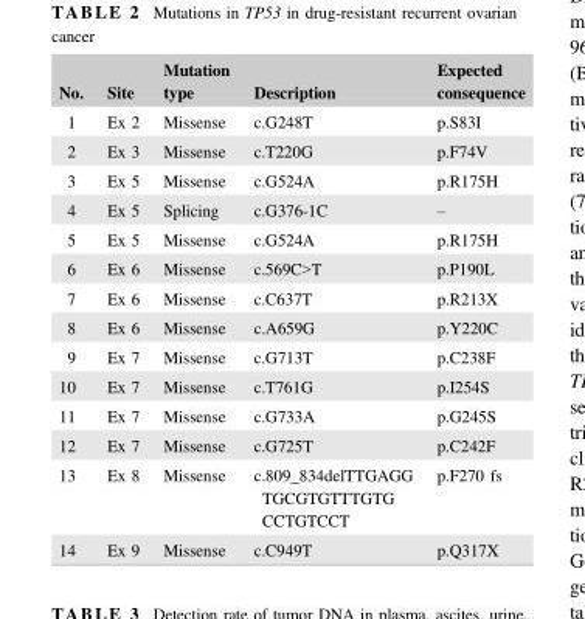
<table><thead><tr><td>No.</td><td>Site</td><td>Mutation type</td><td>Description</td><td>Expected consequence</td></tr></thead><tbody><tr><td>1</td><td>Ex 2</td><td>Missense</td><td>c.G248T</td><td>p.S83I</td></tr><tr><td>2</td><td>Ex 3</td><td>Missense</td><td>c.T220G</td><td>p.F74V</td></tr><tr><td>3</td><td>Ex 5</td><td>Missense</td><td>c.G524A</td><td>p.R175H</td></tr><tr><td>4</td><td>Ex 5</td><td>Splicing</td><td>c.G376-1C</td><td>–</td></tr><tr><td>5</td><td>Ex 5</td><td>Missense</td><td>c.G524A</td><td>p.R175H</td></tr><tr><td>6</td><td>Ex 6</td><td>Missense</td><td>c.569C&gt;T</td><td>p.P190L</td></tr><tr><td>7</td><td>Ex 6</td><td>Missense</td><td>c.C637T</td><td>p.R213X</td></tr><tr><td>8</td><td>Ex 6</td><td>Missense</td><td>c.A659G</td><td>p.Y220C</td></tr><tr><td>9</td><td>Ex 7</td><td>Missense</td><td>c.G713T</td><td>p.C238F</td></tr><tr><td>10</td><td>Ex 7</td><td>Missense</td><td>c.T761G</td><td>p.I254S</td></tr><tr><td>11</td><td>Ex 7</td><td>Missense</td><td>c.G733A</td><td>p.G245S</td></tr><tr><td>12</td><td>Ex 7</td><td>Missense</td><td>c.G725T</td><td>p.C242F</td></tr><tr><td>13</td><td>Ex 8</td><td>Missense</td><td>c.809_834delTTGAGG TGCGTGTTTGTG CCTGTCCT</td><td>p.F270 fs</td></tr><tr><td>14</td><td>Ex 9</td><td>Missense</td><td>c.C949T</td><td>p.Q317X</td></tr></tbody></table>